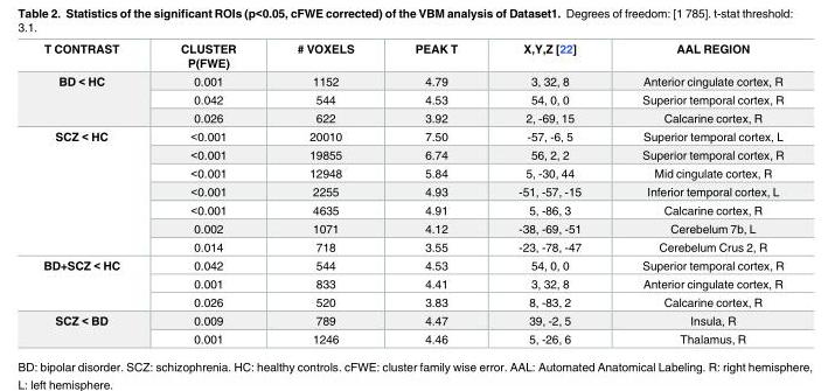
<table><thead><tr><td>T CONTRAST</td><td>CLUSTER P(FWE)</td><td># VOXELS</td><td>PEAK T</td><td>X,Y,Z [22]</td><td>AAL REGION</td></tr></thead><tbody><tr><td rowspan="3">BD &lt; HC</td><td>0.001</td><td>1152</td><td>4.79</td><td>3, 32, 8</td><td>Anterior cingulate cortex, R</td></tr><tr><td>0.042</td><td>544</td><td>4.53</td><td>54, 0, 0</td><td>Superior temporal cortex, R</td></tr><tr><td>0.026</td><td>622</td><td>3.92</td><td>2, -69, 15</td><td>Calcarine cortex, R</td></tr><tr><td rowspan="7">SCZ &lt; HC</td><td>&lt;0.001</td><td>20010</td><td>7.50</td><td>-57, -6, 5</td><td>Superior temporal cortex, L</td></tr><tr><td>&lt;0.001</td><td>19855</td><td>6.74</td><td>56, 2, 2</td><td>Superior temporal cortex, R</td></tr><tr><td>&lt;0.001</td><td>12948</td><td>5.84</td><td>5, -30, 44</td><td>Mid cingulate cortex, R</td></tr><tr><td>&lt;0.001</td><td>2255</td><td>4.93</td><td>-51, -57, -15</td><td>Inferior temporal cortex, L</td></tr><tr><td>&lt;0.001</td><td>4635</td><td>4.91</td><td>5, -86, 3</td><td>Calcarine cortex, R</td></tr><tr><td>0.002</td><td>1071</td><td>4.12</td><td>-38, -69, -51</td><td>Cerebelum 7b, L</td></tr><tr><td>0.014</td><td>718</td><td>3.55</td><td>-23, -78, -47</td><td>Cerebelum Crus 2, R</td></tr><tr><td rowspan="3">BD+SCZ &lt; HC</td><td>0.042</td><td>544</td><td>4.53</td><td>54, 0, 0</td><td>Superior temporal cortex, R</td></tr><tr><td>0.001</td><td>833</td><td>4.41</td><td>3, 32, 8</td><td>Anterior cingulate cortex, R</td></tr><tr><td>0.026</td><td>520</td><td>3.83</td><td>8, -83, 2</td><td>Calcarine cortex, R</td></tr><tr><td rowspan="2">SCZ &lt; BD</td><td>0.009</td><td>789</td><td>4.47</td><td>39, -2, 5</td><td>Insula, R</td></tr><tr><td>0.001</td><td>1246</td><td>4.46</td><td>5, -26, 6</td><td>Thalamus, R</td></tr></tbody></table>